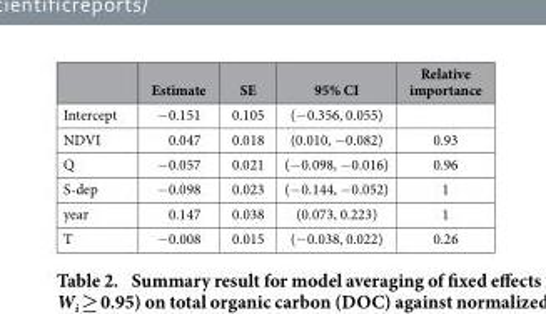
<table><thead><tr><td></td><td>Estimate</td><td>SE</td><td>95% CI</td><td>Relative importance</td></tr></thead><tbody><tr><td>Intercept</td><td>− 0.151</td><td>0.105</td><td>(− 0.356, 0.055)</td><td></td></tr><tr><td>NDVI</td><td>0.047</td><td>0.018</td><td>(0.010, − 0.082)</td><td>0.93</td></tr><tr><td>Q</td><td>− 0.057</td><td>0.021</td><td>(− 0.098, − 0.016)</td><td>0.96</td></tr><tr><td>S-dep</td><td>− 0.098</td><td>0.023</td><td>(− 0.144, − 0.052)</td><td>1</td></tr><tr><td>year</td><td>0.147</td><td>0.038</td><td>(0.073, 0.223)</td><td>1</td></tr><tr><td>T</td><td>− 0.008</td><td>0.015</td><td>(− 0.038, 0.022)</td><td>0.26</td></tr></tbody></table>